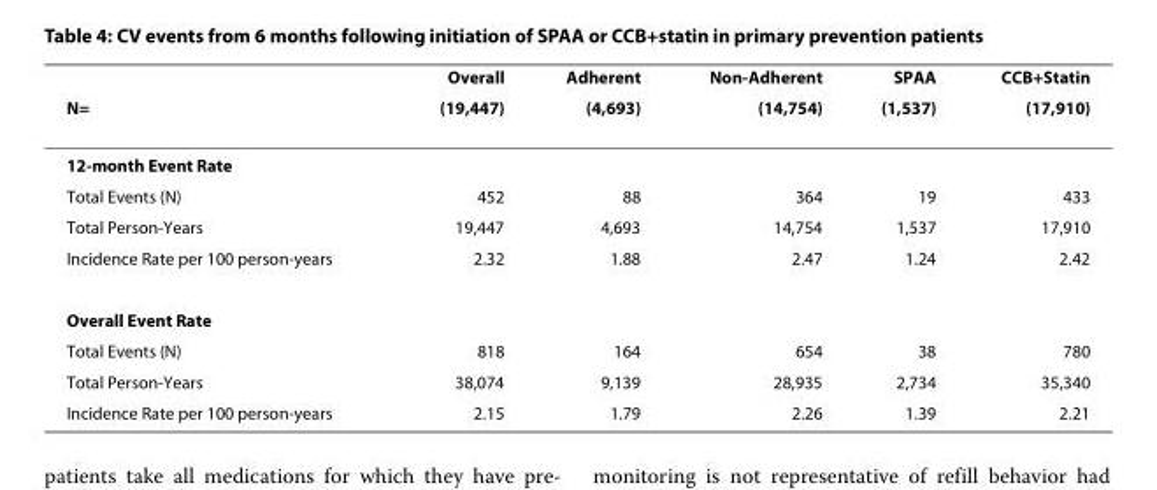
<table><thead><tr><td rowspan="2">N=</td><td rowspan="2">Overall (19,447)</td><td rowspan="2">Adherent (4,693)</td><td rowspan="2">Non-Adherent (14,754)</td><td rowspan="2">SPAA (1,537)</td><td rowspan="2">CCB+Statin (17,910)</td></tr><tr></tr></thead><tbody><tr><td colspan="6">12-month Event Rate</td></tr><tr><td>Total Events (N)</td><td>452</td><td>88</td><td>364</td><td>19</td><td>433</td></tr><tr><td>Total Person-Years</td><td>19,447</td><td>4,693</td><td>14,754</td><td>1,537</td><td>17,910</td></tr><tr><td>Incidence Rate per 100 person-years</td><td>2.32</td><td>1.88</td><td>2.47</td><td>1.24</td><td>2.42</td></tr><tr><td colspan="6">Overall Event Rate</td></tr><tr><td>Total Events (N)</td><td>818</td><td>164</td><td>654</td><td>38</td><td>780</td></tr><tr><td>Total Person-Years</td><td>38,074</td><td>9,139</td><td>28,935</td><td>2,734</td><td>35,340</td></tr><tr><td>Incidence Rate per 100 person-years</td><td>2.15</td><td>1.79</td><td>2.26</td><td>1.39</td><td>2.21</td></tr></tbody></table>